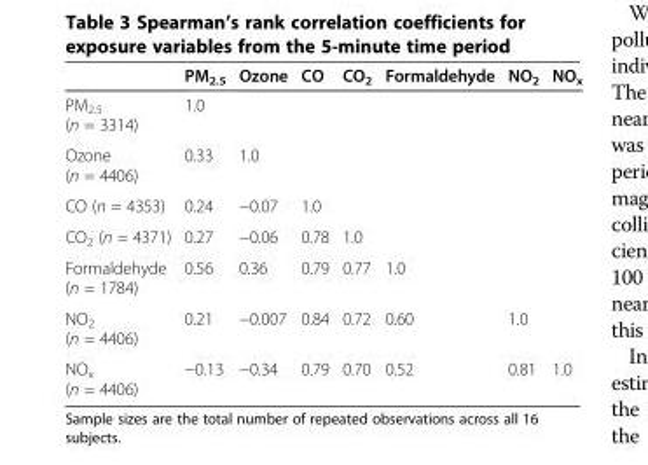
<table><thead><tr><td></td><td>PM<sub>2.5</sub></td><td>Ozone</td><td>CO</td><td>CO<sub>2</sub></td><td>Formaldehyde</td><td>NO<sub>2</sub></td><td>NO<sub>x</sub></td></tr></thead><tbody><tr><td>PM<sub>2.5</sub> (n = 3314)</td><td>1.0</td><td></td><td></td><td></td><td></td><td></td><td></td></tr><tr><td>Ozone (n = 4406)</td><td>0.33</td><td>1.0</td><td></td><td></td><td></td><td></td><td></td></tr><tr><td>CO (n = 4353)</td><td>0.24</td><td>−0.07</td><td>1.0</td><td></td><td></td><td></td><td></td></tr><tr><td>CO<sub>2</sub> (n = 4371)</td><td>0.27</td><td>−0.06</td><td>0.78</td><td>1.0</td><td></td><td></td><td></td></tr><tr><td>Formaldehyde (n = 1784)</td><td>0.56</td><td>0.36</td><td>0.79</td><td>0.77</td><td>1.0</td><td></td><td></td></tr><tr><td>NO<sub>2</sub> (n = 4406)</td><td>0.21</td><td>−0.007</td><td>0.84</td><td>0.72</td><td>0.60</td><td>1.0</td><td></td></tr><tr><td>NO<sub>x</sub> (n = 4406)</td><td>−0.13</td><td>−0.34</td><td>0.79</td><td>0.70</td><td>0.52</td><td>0.81</td><td>1.0</td></tr></tbody></table>